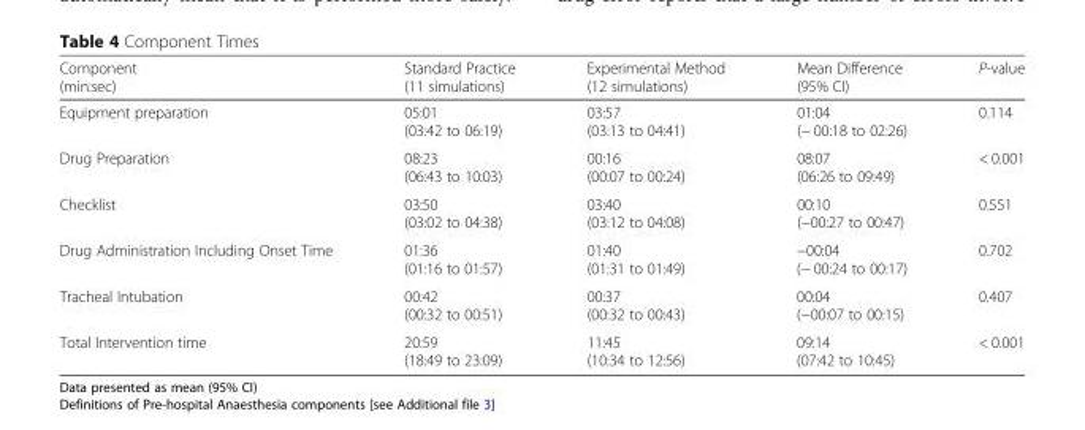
<table><thead><tr><td>Component (min:sec)</td><td>Standard Practice (11 simulations)</td><td>Experimental Method (12 simulations)</td><td>Mean Difference (95% CI)</td><td>P-value</td></tr></thead><tbody><tr><td>Equipment preparation</td><td>05:01 (03:42 to 06:19)</td><td>03:57 (03:13 to 04:41)</td><td>01:04 (− 00:18 to 02:26)</td><td>0.114</td></tr><tr><td>Drug Preparation</td><td>08:23 (06:43 to 10:03)</td><td>00:16 (00:07 to 00:24)</td><td>08:07 (06:26 to 09:49)</td><td>&lt; 0.001</td></tr><tr><td>Checklist</td><td>03:50 (03:02 to 04:38)</td><td>03:40 (03:12 to 04:08)</td><td>00:10 (−00:27 to 00:47)</td><td>0.551</td></tr><tr><td>Drug Administration Including Onset Time</td><td>01:36 (01:16 to 01:57)</td><td>01:40 (01:31 to 01:49)</td><td>−00:04 (− 00:24 to 00:17)</td><td>0.702</td></tr><tr><td>Tracheal Intubation</td><td>00:42 (00:32 to 00:51)</td><td>00:37 (00:32 to 00:43)</td><td>00:04 (−00:07 to 00:15)</td><td>0.407</td></tr><tr><td>Total Intervention time</td><td>20:59 (18:49 to 23:09)</td><td>11:45 (10:34 to 12:56)</td><td>09:14 (07:42 to 10:45)</td><td>&lt; 0.001</td></tr></tbody></table>